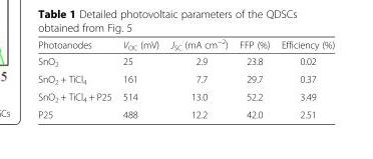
<table><thead><tr><td>Photoanodes</td><td>V<sub>OC</sub> (mV)</td><td>J<sub>SC</sub> (mA cm<sup>−2</sup>)</td><td>FFP (%)</td><td>Efficiency (%)</td></tr></thead><tbody><tr><td>SnO<sub>2</sub></td><td>25</td><td>2.9</td><td>23.8</td><td>0.02</td></tr><tr><td>SnO<sub>2</sub> + TiCl<sub>4</sub></td><td>161</td><td>7.7</td><td>29.7</td><td>0.37</td></tr><tr><td>SnO<sub>2</sub> + TiCl<sub>4</sub> + P25</td><td>514</td><td>13.0</td><td>52.2</td><td>3.49</td></tr><tr><td>P25</td><td>488</td><td>12.2</td><td>42.0</td><td>2.51</td></tr></tbody></table>